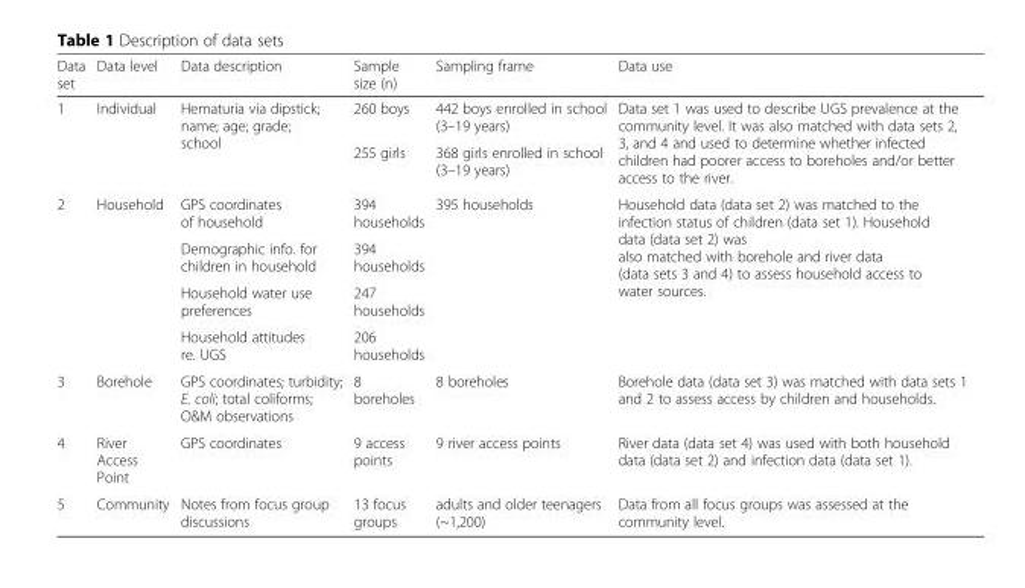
<table><thead><tr><td>Data set</td><td>Data level</td><td>Data description</td><td>Sample size (n)</td><td>Sampling frame</td><td>Data use</td></tr></thead><tbody><tr><td rowspan="2">1</td><td rowspan="2">Individual</td><td rowspan="2">Hematuria via dipstick; name; age; grade; school</td><td>260 boys</td><td>442 boys enrolled in school (3–19 years)</td><td rowspan="2">Data set 1 was used to describe UGS prevalence at the community level. It was also matched with data sets 2, 3, and 4 and used to determine whether infected children had poorer access to boreholes and/or better access to the river.</td></tr><tr><td>255 girls</td><td>368 girls enrolled in school (3–19 years)</td></tr><tr><td rowspan="4">2</td><td rowspan="4">Household</td><td>GPS coordinates of household</td><td>394 households</td><td rowspan="4">395 households</td><td rowspan="4">Household data (data set 2) was matched to the infection status of children (data set 1). Household data (data set 2) was also matched with borehole and river data (data sets 3 and 4) to assess household access to water sources.</td></tr><tr><td>Demographic info. for children in household</td><td>394 households</td></tr><tr><td>Household water use preferences</td><td>247 households</td></tr><tr><td>Household attitudes re. UGS</td><td>206 households</td></tr><tr><td>3</td><td>Borehole</td><td>GPS coordinates; turbidity; E. coli; total coliforms; O&amp;M observations</td><td>8 boreholes</td><td>8 boreholes</td><td>Borehole data (data set 3) was matched with data sets 1 and 2 to assess access by children and households.</td></tr><tr><td>4</td><td>River Access Point</td><td>GPS coordinates</td><td>9 access points</td><td>9 river access points</td><td>River data (data set 4) was used with both household data (data set 2) and infection data (data set 1).</td></tr><tr><td>5</td><td>Community</td><td>Notes from focus group discussions</td><td>13 focus groups</td><td>adults and older teenagers (~1,200)</td><td>Data from all focus groups was assessed at the community level.</td></tr></tbody></table>